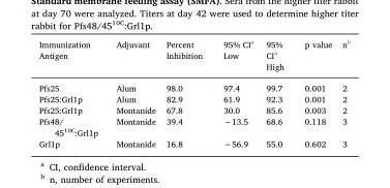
<table><thead><tr><td>Immunization Antigen</td><td>Adjuvant</td><td>Percent Inhibition</td><td>95% CI<sup>a</sup> Low</td><td>95% CI<sup>a</sup> High</td><td>p value</td><td>n<sup>b</sup></td></tr></thead><tbody><tr><td>Pfs25</td><td>Alum</td><td>98.0</td><td>97.4</td><td>99.7</td><td>0.001</td><td>2</td></tr><tr><td>Pfs25:Grl1p</td><td>Alum</td><td>82.9</td><td>61.9</td><td>92.3</td><td>0.001</td><td>2</td></tr><tr><td>Pfs25:Grl1p</td><td>Montanide</td><td>67.8</td><td>30.0</td><td>85.6</td><td>0.003</td><td>2</td></tr><tr><td>Pfs48/ 45<sup>10C</sup>:Grl1p</td><td>Montanide</td><td>39.4</td><td>−13.5</td><td>68.6</td><td>0.118</td><td>3</td></tr><tr><td>Grl1p</td><td>Montanide</td><td>16.8</td><td>−56.9</td><td>55.0</td><td>0.602</td><td>3</td></tr></tbody></table>